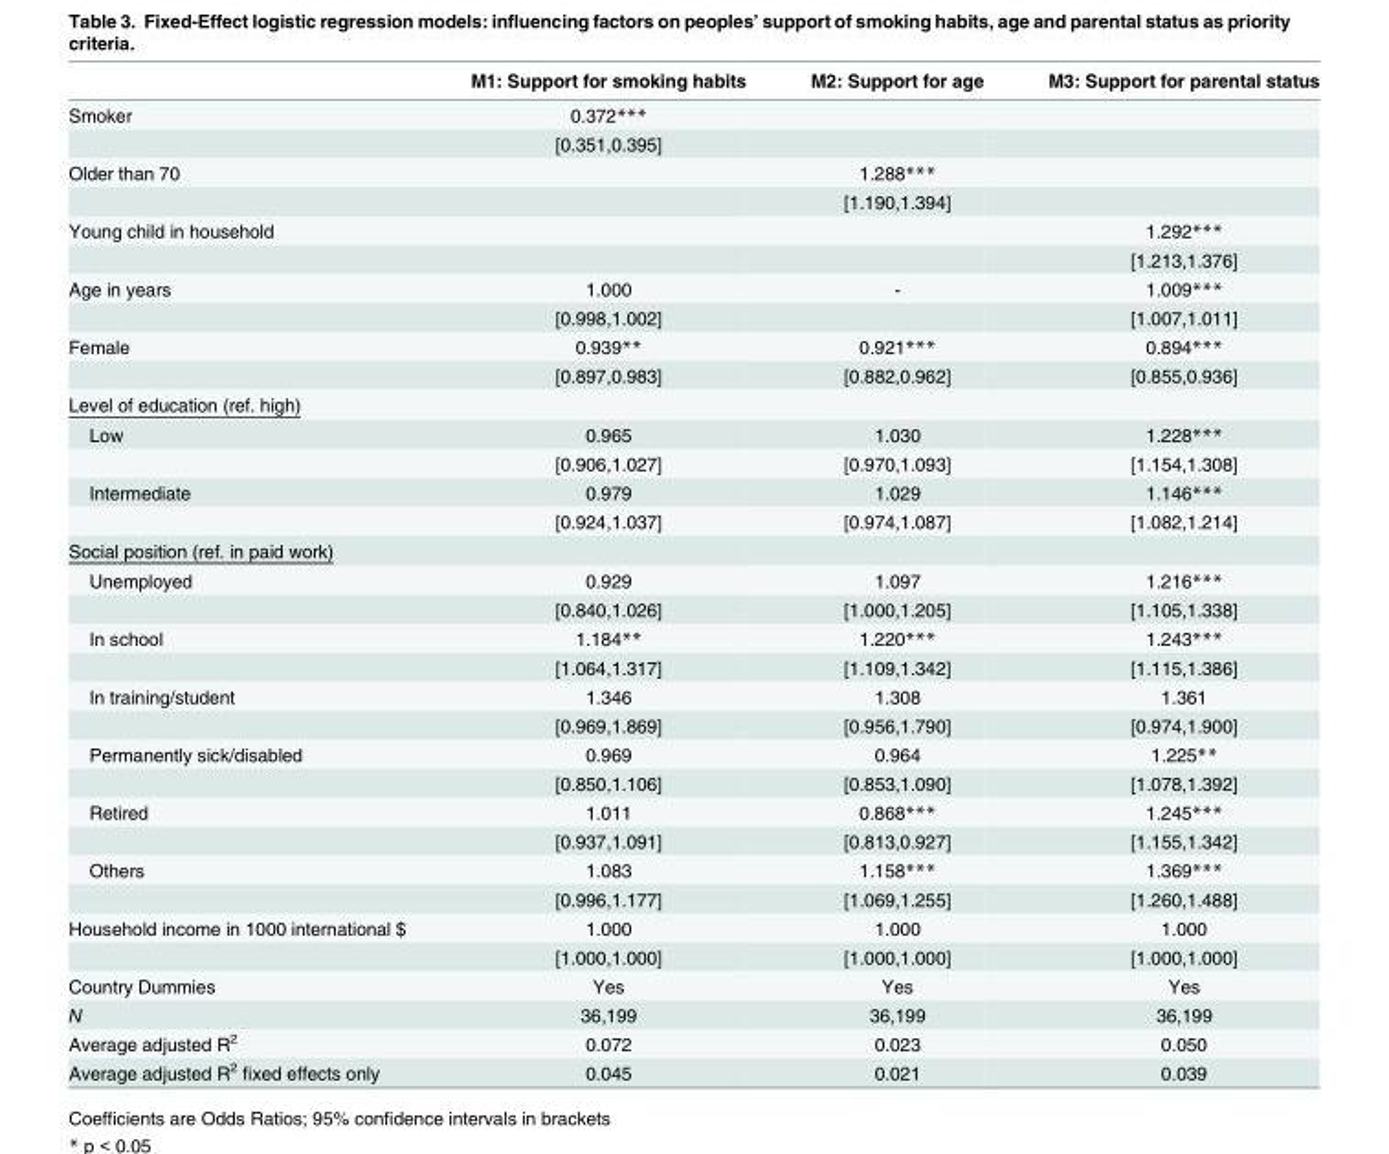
<table><thead><tr><td></td><td>M1: Support for smoking habits</td><td>M2: Support for age</td><td>M3: Support for parental status</td></tr></thead><tbody><tr><td rowspan="2">Smoker</td><td>0.372***</td><td></td><td></td></tr><tr><td>[0.351,0.395]</td><td></td><td></td></tr><tr><td rowspan="2">Older than 70</td><td></td><td>1.288***</td><td></td></tr><tr><td></td><td>[1.190,1.394]</td><td></td></tr><tr><td rowspan="2">Young child in household</td><td></td><td></td><td>1.292***</td></tr><tr><td></td><td></td><td>[1.213,1.376]</td></tr><tr><td rowspan="2">Age in years</td><td>1.000</td><td>-</td><td>1.009***</td></tr><tr><td>[0.998,1.002]</td><td></td><td>[1.007,1.011]</td></tr><tr><td rowspan="2">Female</td><td>0.939**</td><td>0.921***</td><td>0.894***</td></tr><tr><td>[0.897,0.983]</td><td>[0.882,0.962]</td><td>[0.855,0.936]</td></tr><tr><td colspan="4">Level of education (ref. high)</td></tr><tr><td rowspan="2">Low</td><td>0.965</td><td>1.030</td><td>1.228***</td></tr><tr><td>[0.906,1.027]</td><td>[0.970,1.093]</td><td>[1.154,1.308]</td></tr><tr><td rowspan="2">Intermediate</td><td>0.979</td><td>1.029</td><td>1.146***</td></tr><tr><td>[0.924,1.037]</td><td>[0.974,1.087]</td><td>[1.082,1.214]</td></tr><tr><td colspan="4">Social position (ref. in paid work)</td></tr><tr><td rowspan="2">Unemployed</td><td>0.929</td><td>1.097</td><td>1.216***</td></tr><tr><td>[0.840,1.026]</td><td>[1.000,1.205]</td><td>[1.105,1.338]</td></tr><tr><td rowspan="2">In school</td><td>1.184**</td><td>1.220***</td><td>1.243***</td></tr><tr><td>[1.064,1.317]</td><td>[1.109,1.342]</td><td>[1.115,1.386]</td></tr><tr><td rowspan="2">In training/student</td><td>1.346</td><td>1.308</td><td>1.361</td></tr><tr><td>[0.969,1.869]</td><td>[0.956,1.790]</td><td>[0.974,1.900]</td></tr><tr><td rowspan="2">Permanently sick/disabled</td><td>0.969</td><td>0.964</td><td>1.225**</td></tr><tr><td>[0.850,1.106]</td><td>[0.853,1.090]</td><td>[1.078,1.392]</td></tr><tr><td rowspan="2">Retired</td><td>1.011</td><td>0.868***</td><td>1.245***</td></tr><tr><td>[0.937,1.091]</td><td>[0.813,0.927]</td><td>[1.155,1.342]</td></tr><tr><td rowspan="2">Others</td><td>1.083</td><td>1.158***</td><td>1.369***</td></tr><tr><td>[0.996,1.177]</td><td>[1.069,1.255]</td><td>[1.260,1.488]</td></tr><tr><td rowspan="2">Household income in 1000 international $</td><td>1.000</td><td>1.000</td><td>1.000</td></tr><tr><td>[1.000,1.000]</td><td>[1.000,1.000]</td><td>[1.000,1.000]</td></tr><tr><td>Country Dummies</td><td>Yes</td><td>Yes</td><td>Yes</td></tr><tr><td>N</td><td>36,199</td><td>36,199</td><td>36,199</td></tr><tr><td>Average adjusted R<sup>2</sup></td><td>0.072</td><td>0.023</td><td>0.050</td></tr><tr><td>Average adjusted R<sup>2</sup> fixed effects only</td><td>0.045</td><td>0.021</td><td>0.039</td></tr></tbody></table>